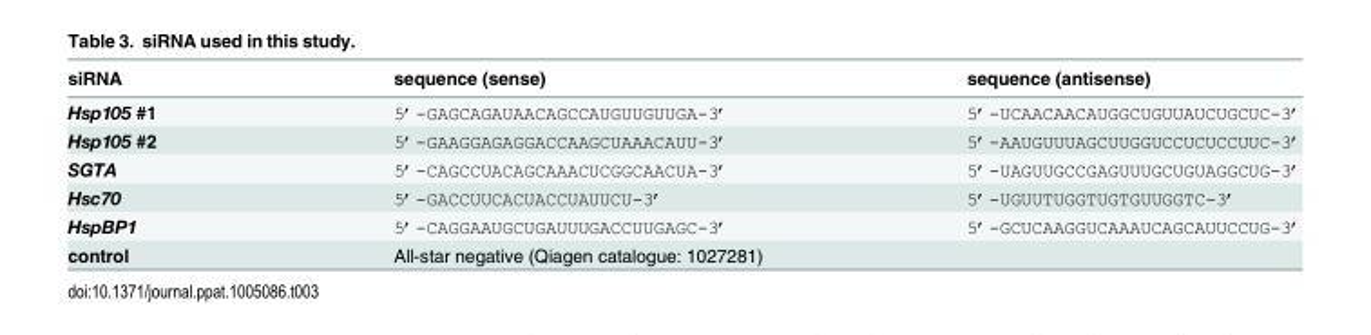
<table><thead><tr><td>siRNA</td><td>sequence (sense)</td><td>sequence (antisense)</td></tr></thead><tbody><tr><td>Hsp105 #1</td><td>5’-GAGCAGAUAACAGCCAUGUUGUUGA-3’</td><td>5’-UCAACAACAUGGCUGUUAUCUGCUC-3’</td></tr><tr><td>Hsp105 #2</td><td>5’-GAAGGAGAGGACCAAGCUAAACAUU-3’</td><td>5’-AAUGUUUAGCUUGGUCCUCUCCUUC-3’</td></tr><tr><td>SGTA</td><td>5’-CAGCCUACAGCAAACUCGGCAACUA-3’</td><td>5’-UAGUUGCCGAGUUUGCUGUAGGCUG-3’</td></tr><tr><td>Hsc70</td><td>5’-GACCUUCACUACCUAUUCU-3’</td><td>5’-UGUUTUGGTUGTGUUGGTC-3’</td></tr><tr><td>HspBP1</td><td>5’-CAGGAAUGCUGAUUUGACCUUGAGC-3’</td><td>5’-GCUCAAGGUCAAAUCAGCAUUCCUG-3’</td></tr><tr><td>control</td><td colspan="2">All-star negative (Qiagen catalogue: 1027281)</td></tr></tbody></table>